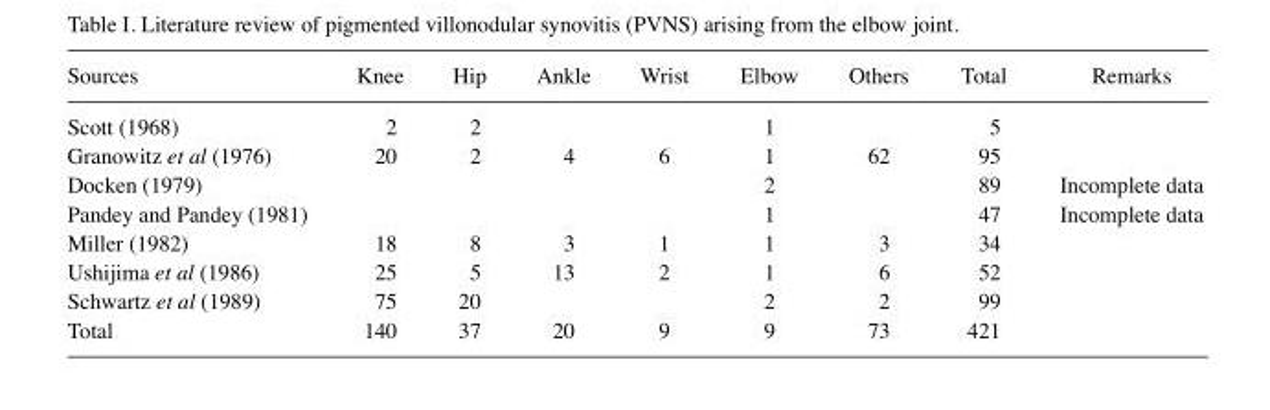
<table><thead><tr><td>Sources</td><td>Knee</td><td>Hip</td><td>Ankle</td><td>Wrist</td><td>Elbow</td><td>Others</td><td>Total</td><td>Remarks</td></tr></thead><tbody><tr><td>Scott (1968)</td><td>2</td><td>2</td><td></td><td></td><td>1</td><td></td><td>5</td><td></td></tr><tr><td>Granowitz et al (1976)</td><td>20</td><td>2</td><td>4</td><td>6</td><td>1</td><td>62</td><td>95</td><td></td></tr><tr><td>Docken (1979)</td><td></td><td></td><td></td><td></td><td>2</td><td></td><td>89</td><td>Incomplete data</td></tr><tr><td>Pandey and Pandey (1981)</td><td></td><td></td><td></td><td></td><td>1</td><td></td><td>47</td><td>Incomplete data</td></tr><tr><td>Miller (1982)</td><td>18</td><td>8</td><td>3</td><td>1</td><td>1</td><td>3</td><td>34</td><td></td></tr><tr><td>Ushijima et al (1986)</td><td>25</td><td>5</td><td>13</td><td>2</td><td>1</td><td>6</td><td>52</td><td></td></tr><tr><td>Schwartz et al (1989)</td><td>75</td><td>20</td><td></td><td></td><td>2</td><td>2</td><td>99</td><td></td></tr><tr><td>Total</td><td>140</td><td>37</td><td>20</td><td>9</td><td>9</td><td>73</td><td>421</td><td></td></tr></tbody></table>